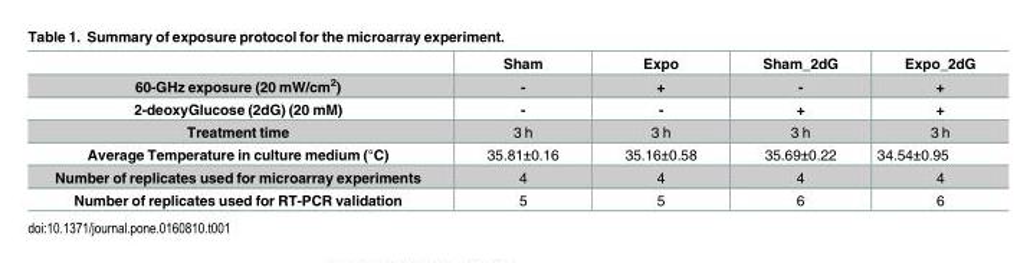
<table><thead><tr><td></td><td>Sham</td><td>Expo</td><td>Sham_2dG</td><td>Expo_2dG</td></tr></thead><tbody><tr><td>60-GHz exposure (20 mW/cm<sup>2</sup>)</td><td>-</td><td>+</td><td>-</td><td>+</td></tr><tr><td>2-deoxyGlucose (2dG) (20 mM)</td><td>-</td><td>-</td><td>+</td><td>+</td></tr><tr><td>Treatment time</td><td>3 h</td><td>3 h</td><td>3 h</td><td>3 h</td></tr><tr><td>Average Temperature in culture medium (°C)</td><td>35.81±0.16</td><td>35.16±0.58</td><td>35.69±0.22</td><td>34.54±0.95</td></tr><tr><td>Number of replicates used for microarray experiments</td><td>4</td><td>4</td><td>4</td><td>4</td></tr><tr><td>Number of replicates used for RT-PCR validation</td><td>5</td><td>5</td><td>6</td><td>6</td></tr></tbody></table>